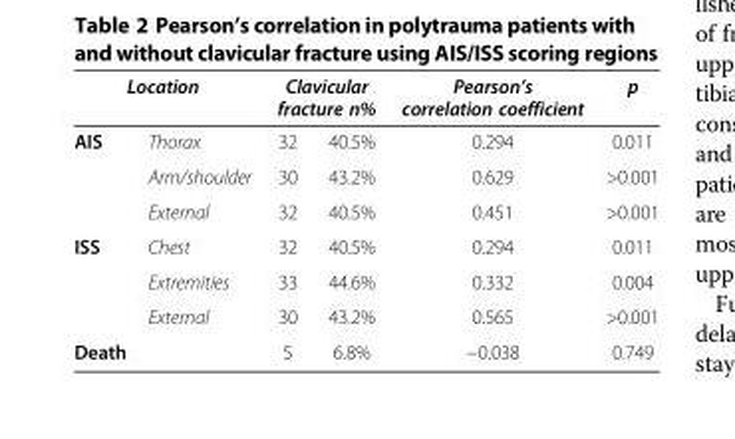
<table><thead><tr><td colspan="2">Location</td><td colspan="2">Clavicular fracture n%</td><td rowspan="2">Pearson’s correlation coefficient 0.294</td><td rowspan="2">p 0.011</td></tr><tr><td>AIS</td><td>Thorax</td><td>32</td><td>40.5%</td></tr></thead><tbody><tr><td></td><td>Arm/shoulder</td><td>30</td><td>43.2%</td><td>0.629</td><td>&gt;0.001</td></tr><tr><td></td><td>External</td><td>32</td><td>40.5%</td><td>0.451</td><td>&gt;0.001</td></tr><tr><td rowspan="3">ISS</td><td>Chest</td><td>32</td><td>40.5%</td><td>0.294</td><td>0.011</td></tr><tr><td>Extremities</td><td>33</td><td>44.6%</td><td>0.332</td><td>0.004</td></tr><tr><td>External</td><td>30</td><td>43.2%</td><td>0.565</td><td>&gt;0.001</td></tr><tr><td>Death</td><td></td><td>5</td><td>6.8%</td><td>−0.038</td><td>0.749</td></tr></tbody></table>